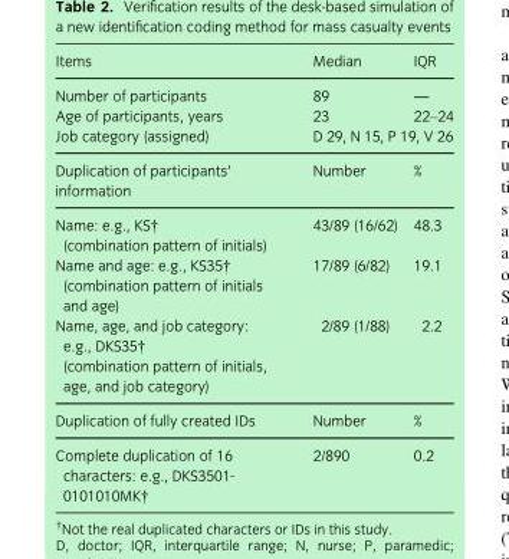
<table><thead><tr><td>Items</td><td>Median</td><td>IQR</td></tr></thead><tbody><tr><td>Number of participants</td><td>89</td><td>―</td></tr><tr><td>Age of participants, years</td><td>23</td><td>22–24</td></tr><tr><td>Job category (assigned)</td><td colspan="2">D 29, N 15, P 19, V 26</td></tr><tr><td>Duplication of participants’ information</td><td>Number</td><td>%</td></tr><tr><td>Name: e.g., KS† (combination pattern of initials)</td><td>43/89 (16/62)</td><td>48.3</td></tr><tr><td>Name and age: e.g., KS35† (combination pattern of initials and age)</td><td>17/89 (6/82)</td><td>19.1</td></tr><tr><td>Name, age, and job category: e.g., DKS35† (combination pattern of initials, age, and job category)</td><td>2/89 (1/88)</td><td>2.2</td></tr><tr><td>Duplication of fully created IDs</td><td>Number</td><td>%</td></tr><tr><td>Complete duplication of 16 characters: e.g., DKS3501- 0101010MK†</td><td>2/890</td><td>0.2</td></tr></tbody></table>